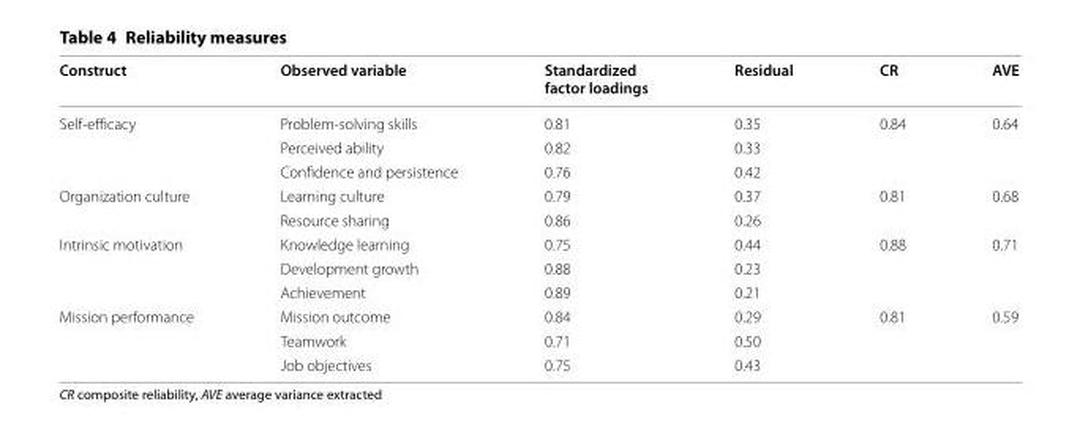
<table><thead><tr><td>Construct</td><td>Observed variable</td><td>Standardized factor loadings</td><td>Residual</td><td>CR</td><td>AVE</td></tr></thead><tbody><tr><td rowspan="3">Self‑efficacy</td><td>Problem‑solving skills</td><td>0.81</td><td>0.35</td><td>0.84</td><td>0.64</td></tr><tr><td>Perceived ability</td><td>0.82</td><td>0.33</td><td></td><td></td></tr><tr><td>Confidence and persistence</td><td>0.76</td><td>0.42</td><td></td><td></td></tr><tr><td rowspan="2">Organization culture</td><td>Learning culture</td><td>0.79</td><td>0.37</td><td>0.81</td><td>0.68</td></tr><tr><td>Resource sharing</td><td>0.86</td><td>0.26</td><td></td><td></td></tr><tr><td rowspan="3">Intrinsic motivation</td><td>Knowledge learning</td><td>0.75</td><td>0.44</td><td>0.88</td><td>0.71</td></tr><tr><td>Development growth</td><td>0.88</td><td>0.23</td><td></td><td></td></tr><tr><td>Achievement</td><td>0.89</td><td>0.21</td><td></td><td></td></tr><tr><td rowspan="3">Mission performance</td><td>Mission outcome</td><td>0.84</td><td>0.29</td><td>0.81</td><td>0.59</td></tr><tr><td>Teamwork</td><td>0.71</td><td>0.50</td><td></td><td></td></tr><tr><td>Job objectives</td><td>0.75</td><td>0.43</td><td></td><td></td></tr></tbody></table>